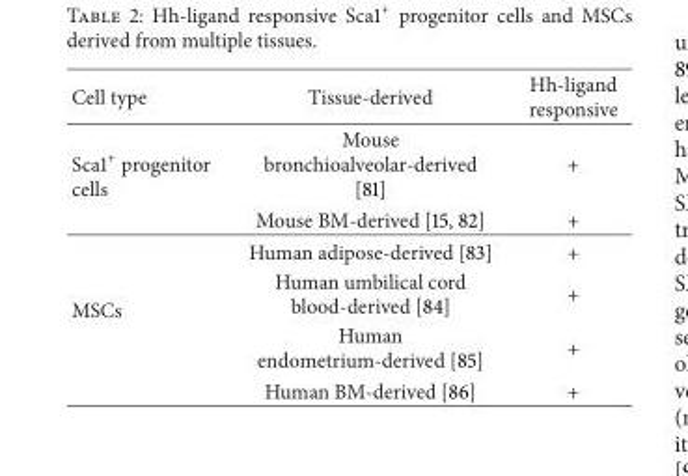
<table><thead><tr><td>Cell type</td><td>Tissue-derived</td><td>Hh-ligand responsive</td></tr></thead><tbody><tr><td rowspan="2">Sca1<sup>+</sup> progenitor cells</td><td>Mouse bronchioalveolar-derived [81]</td><td>+</td></tr><tr><td>Mouse BM-derived [15, 82]</td><td>+</td></tr><tr><td rowspan="4">MSCs</td><td>Human adipose-derived [83]</td><td>+</td></tr><tr><td>Human umbilical cord blood-derived [84]</td><td>+</td></tr><tr><td>Human endometrium-derived [85]</td><td>+</td></tr><tr><td>Human BM-derived [86]</td><td>+</td></tr></tbody></table>